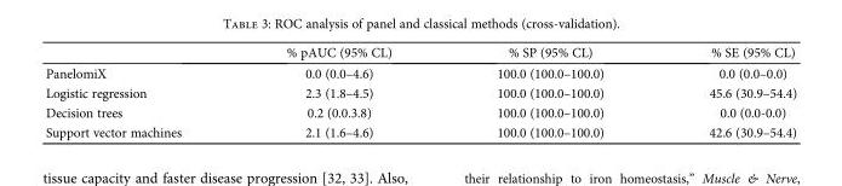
<table><thead><tr><td></td><td>% pAUC (95% CL)</td><td>% SP (95% CL)</td><td>% SE (95% CL)</td></tr></thead><tbody><tr><td>PanelomiX</td><td>0.0 (0.0–4.6)</td><td>100.0 (100.0–100.0)</td><td>0.0 (0.0–0.0)</td></tr><tr><td>Logistic regression</td><td>2.3 (1.8–4.5)</td><td>100.0 (100.0–100.0)</td><td>45.6 (30.9–54.4)</td></tr><tr><td>Decision trees</td><td>0.2 (0.0.3.8)</td><td>100.0 (100.0–100.0)</td><td>0.0 (0.0-0.0)</td></tr><tr><td>Support vector machines</td><td>2.1 (1.6–4.6)</td><td>100.0 (100.0–100.0)</td><td>42.6 (30.9–54.4)</td></tr></tbody></table>